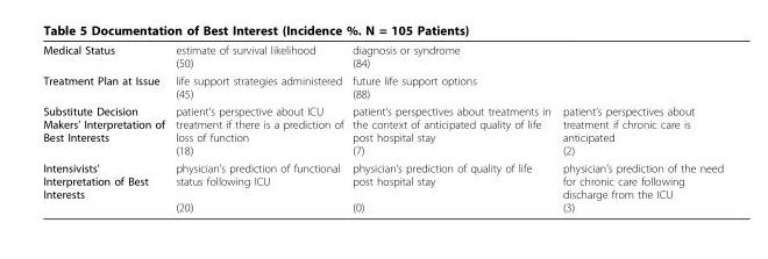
<table><tbody><tr><td>Medical Status</td><td>estimate of survival likelihood (50)</td><td>diagnosis or syndrome (84)</td><td></td></tr><tr><td>Treatment Plan at Issue</td><td>life support strategies administered (45)</td><td>future life support options (88)</td><td></td></tr><tr><td>Substitute Decision Makers’ Interpretation of Best Interests</td><td>patient’s perspective about ICU treatment if there is a prediction of loss of function (18)</td><td>patient’s perspectives about treatments in the context of anticipated quality of life post hospital stay (7)</td><td>patient’s perspectives about treatment if chronic care is anticipated (2)</td></tr><tr><td>Intensivists’ Interpretation of Best Interests</td><td>physician’s prediction of functional status following ICU (20)</td><td>physician’s prediction of quality of life post hospital stay (0)</td><td>physician’s prediction of the need for chronic care following discharge from the ICU (3)</td></tr></tbody></table>